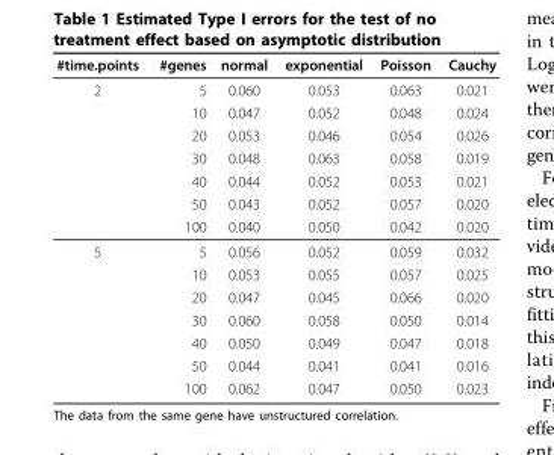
<table><thead><tr><td>#time.points</td><td>#genes</td><td>normal</td><td>exponential</td><td>Poisson</td><td>Cauchy</td></tr></thead><tbody><tr><td rowspan="7">2</td><td>5</td><td>0.060</td><td>0.053</td><td>0.063</td><td>0.021</td></tr><tr><td>10</td><td>0.047</td><td>0.052</td><td>0.048</td><td>0.024</td></tr><tr><td>20</td><td>0.053</td><td>0.046</td><td>0.054</td><td>0.026</td></tr><tr><td>30</td><td>0.048</td><td>0.063</td><td>0.058</td><td>0.019</td></tr><tr><td>40</td><td>0.044</td><td>0.052</td><td>0.053</td><td>0.021</td></tr><tr><td>50</td><td>0.043</td><td>0.052</td><td>0.057</td><td>0.020</td></tr><tr><td>100</td><td>0.040</td><td>0.050</td><td>0.042</td><td>0.020</td></tr><tr><td rowspan="7">5</td><td>5</td><td>0.056</td><td>0.052</td><td>0.059</td><td>0.032</td></tr><tr><td>10</td><td>0.053</td><td>0.055</td><td>0.057</td><td>0.025</td></tr><tr><td>20</td><td>0.047</td><td>0.045</td><td>0.066</td><td>0.020</td></tr><tr><td>30</td><td>0.060</td><td>0.058</td><td>0.050</td><td>0.014</td></tr><tr><td>40</td><td>0.050</td><td>0.049</td><td>0.047</td><td>0.018</td></tr><tr><td>50</td><td>0.044</td><td>0.041</td><td>0.041</td><td>0.016</td></tr><tr><td>100</td><td>0.062</td><td>0.047</td><td>0.050</td><td>0.023</td></tr></tbody></table>